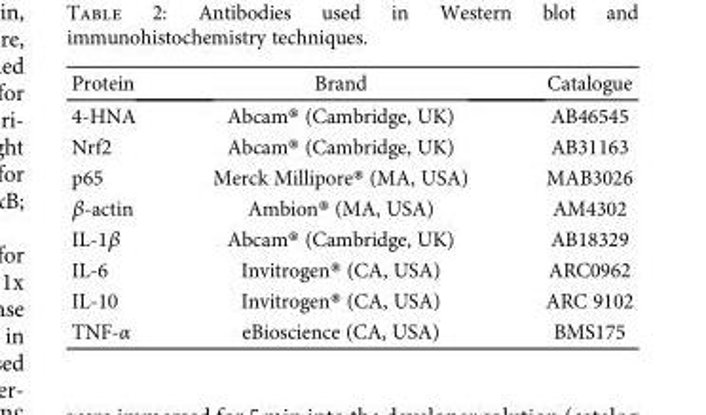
<table><thead><tr><td>Protein</td><td>Brand</td><td>Catalogue</td></tr></thead><tbody><tr><td>4-HNA</td><td>Abcam® (Cambridge, UK)</td><td>AB46545</td></tr><tr><td>Nrf2</td><td>Abcam® (Cambridge, UK)</td><td>AB31163</td></tr><tr><td>p65</td><td>Merck Millipore® (MA, USA)</td><td>MAB3026</td></tr><tr><td>β-actin</td><td>Ambion® (MA, USA)</td><td>AM4302</td></tr><tr><td>IL-1β</td><td>Abcam® (Cambridge, UK)</td><td>AB18329</td></tr><tr><td>IL-6</td><td>Invitrogen® (CA, USA)</td><td>ARC0962</td></tr><tr><td>IL-10</td><td>Invitrogen® (CA, USA)</td><td>ARC 9102</td></tr><tr><td>TNF-α</td><td>eBioscience (CA, USA)</td><td>BMS175</td></tr></tbody></table>